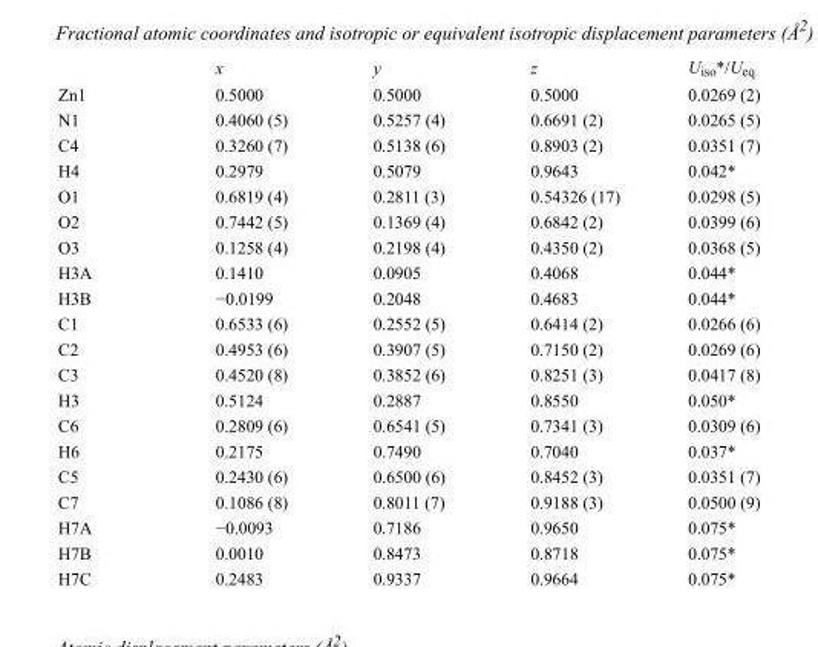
<table><thead><tr><td></td><td>x</td><td>y</td><td>z</td><td>U<sub>iso</sub>*/U<sub>eq</sub></td></tr></thead><tbody><tr><td>Zn1</td><td>0.5000</td><td>0.5000</td><td>0.5000</td><td>0.0269 (2)</td></tr><tr><td>N1</td><td>0.4060 (5)</td><td>0.5257 (4)</td><td>0.6691 (2)</td><td>0.0265 (5)</td></tr><tr><td>C4</td><td>0.3260 (7)</td><td>0.5138 (6)</td><td>0.8903 (2)</td><td>0.0351 (7)</td></tr><tr><td>H4</td><td>0.2979</td><td>0.5079</td><td>0.9643</td><td>0.042*</td></tr><tr><td>O1</td><td>0.6819 (4)</td><td>0.2811 (3)</td><td>0.54326 (17)</td><td>0.0298 (5)</td></tr><tr><td>O2</td><td>0.7442 (5)</td><td>0.1369 (4)</td><td>0.6842 (2)</td><td>0.0399 (6)</td></tr><tr><td>O3</td><td>0.1258 (4)</td><td>0.2198 (4)</td><td>0.4350 (2)</td><td>0.0368 (5)</td></tr><tr><td>H3A</td><td>0.1410</td><td>0.0905</td><td>0.4068</td><td>0.044*</td></tr><tr><td>H3B</td><td>−0.0199</td><td>0.2048</td><td>0.4683</td><td>0.044*</td></tr><tr><td>C1</td><td>0.6533 (6)</td><td>0.2552 (5)</td><td>0.6414 (2)</td><td>0.0266 (6)</td></tr><tr><td>C2</td><td>0.4953 (6)</td><td>0.3907 (5)</td><td>0.7150 (2)</td><td>0.0269 (6)</td></tr><tr><td>C3</td><td>0.4520 (8)</td><td>0.3852 (6)</td><td>0.8251 (3)</td><td>0.0417 (8)</td></tr><tr><td>H3</td><td>0.5124</td><td>0.2887</td><td>0.8550</td><td>0.050*</td></tr><tr><td>C6</td><td>0.2809 (6)</td><td>0.6541 (5)</td><td>0.7341 (3)</td><td>0.0309 (6)</td></tr><tr><td>H6</td><td>0.2175</td><td>0.7490</td><td>0.7040</td><td>0.037*</td></tr><tr><td>C5</td><td>0.2430 (6)</td><td>0.6500 (6)</td><td>0.8452 (3)</td><td>0.0351 (7)</td></tr><tr><td>C7</td><td>0.1086 (8)</td><td>0.8011 (7)</td><td>0.9188 (3)</td><td>0.0500 (9)</td></tr><tr><td>H7A</td><td>−0.0093</td><td>0.7186</td><td>0.9650</td><td>0.075*</td></tr><tr><td>H7B</td><td>0.0010</td><td>0.8473</td><td>0.8718</td><td>0.075*</td></tr><tr><td>H7C</td><td>0.2483</td><td>0.9337</td><td>0.9664</td><td>0.075*</td></tr></tbody></table>